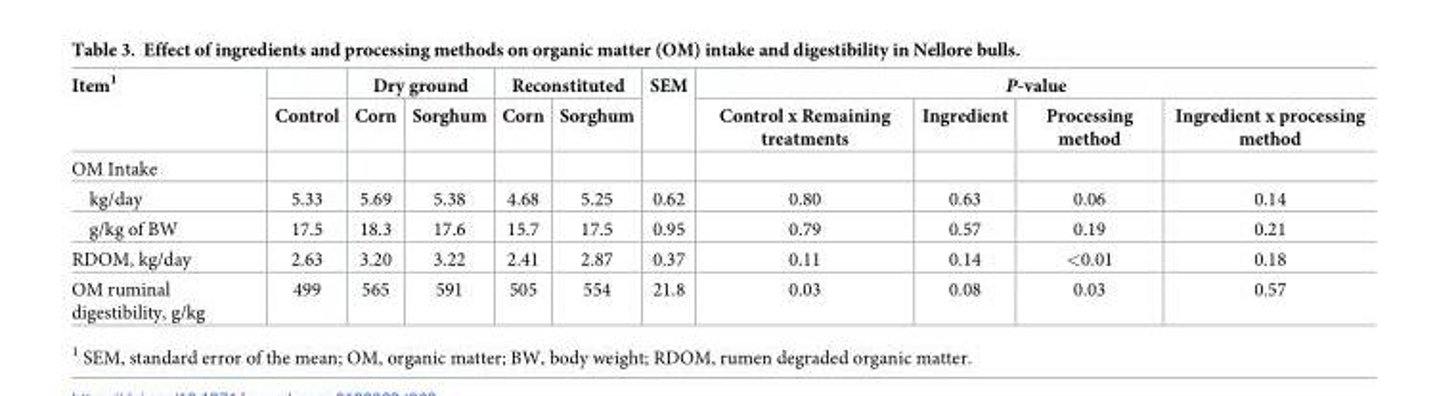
<table><thead><tr><td rowspan="2">Item<sup>1</sup></td><td rowspan="2">Control</td><td colspan="2">Dry ground</td><td colspan="2">Reconstituted</td><td rowspan="2">SEM</td><td colspan="4">P-value</td></tr><tr><td>Corn</td><td>Sorghum</td><td>Corn</td><td>Sorghum</td><td>Control x Remaining treatments</td><td>Ingredient</td><td>Processing method</td><td>Ingredient x processing method</td></tr></thead><tbody><tr><td colspan="11">OM Intake</td></tr><tr><td>kg/day</td><td>5.33</td><td>5.69</td><td>5.38</td><td>4.68</td><td>5.25</td><td>0.62</td><td>0.80</td><td>0.63</td><td>0.06</td><td>0.14</td></tr><tr><td>g/kg of BW</td><td>17.5</td><td>18.3</td><td>17.6</td><td>15.7</td><td>17.5</td><td>0.95</td><td>0.79</td><td>0.57</td><td>0.19</td><td>0.21</td></tr><tr><td>RDOM, kg/day</td><td>2.63</td><td>3.20</td><td>3.22</td><td>2.41</td><td>2.87</td><td>0.37</td><td>0.11</td><td>0.14</td><td>&lt;0.01</td><td>0.18</td></tr><tr><td>OM ruminal digestibility, g/kg</td><td>499</td><td>565</td><td>591</td><td>505</td><td>554</td><td>21.8</td><td>0.03</td><td>0.08</td><td>0.03</td><td>0.57</td></tr></tbody></table>